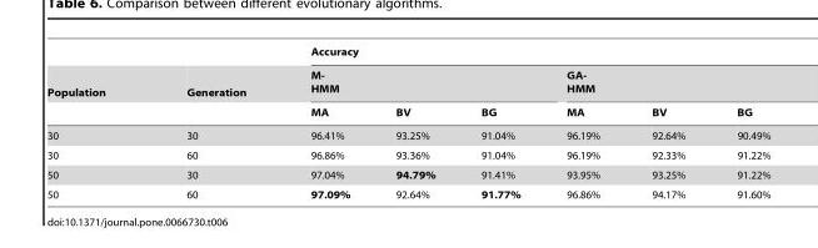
<table><thead><tr><td rowspan="3">Population</td><td rowspan="3">Generation</td><td colspan="6">Accuracy</td></tr><tr><td colspan="3">M- HMM</td><td colspan="3">GA- HMM</td></tr><tr><td>MA</td><td>BV</td><td>BG</td><td>MA</td><td>BV</td><td>BG</td></tr></thead><tbody><tr><td>30</td><td>30</td><td>96.41%</td><td>93.25%</td><td>91.04%</td><td>96.19%</td><td>92.64%</td><td>90.49%</td></tr><tr><td>30</td><td>60</td><td>96.86%</td><td>93.36%</td><td>91.04%</td><td>96.19%</td><td>92.33%</td><td>91.22%</td></tr><tr><td>50</td><td>30</td><td>97.04%</td><td>94.79%</td><td>91.41%</td><td>93.95%</td><td>93.25%</td><td>91.22%</td></tr><tr><td>50</td><td>60</td><td>97.09%</td><td>92.64%</td><td>91.77%</td><td>96.86%</td><td>94.17%</td><td>91.60%</td></tr></tbody></table>